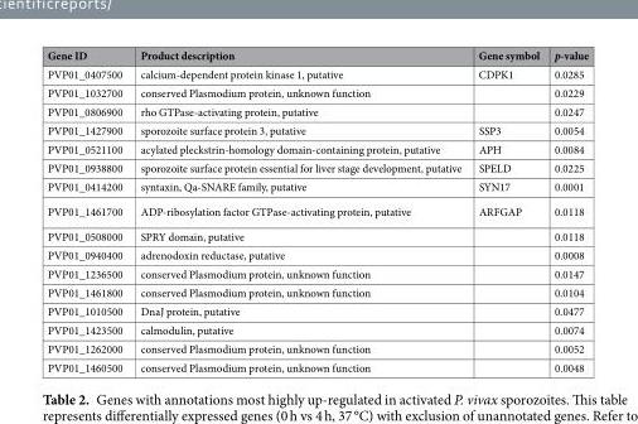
<table><thead><tr><td>Gene ID</td><td>Product description</td><td>Gene symbol</td><td>p-value</td></tr></thead><tbody><tr><td>PVP01_0407500</td><td>calcium-dependent protein kinase 1, putative</td><td>CDPK1</td><td>0.0285</td></tr><tr><td>PVP01_1032700</td><td>conserved Plasmodium protein, unknown function</td><td></td><td>0.0229</td></tr><tr><td>PVP01_0806900</td><td>rho GTPase-activating protein, putative</td><td></td><td>0.0247</td></tr><tr><td>PVP01_1427900</td><td>sporozoite surface protein 3, putative</td><td>SSP3</td><td>0.0054</td></tr><tr><td>PVP01_0521100</td><td>acylated pleckstrin-homology domain-containing protein, putative</td><td>APH</td><td>0.0084</td></tr><tr><td>PVP01_0938800</td><td>sporozoite surface protein essential for liver stage development, putative</td><td>SPELD</td><td>0.0225</td></tr><tr><td>PVP01_0414200</td><td>syntaxin, Qa-SNARE family, putative</td><td>SYN17</td><td>0.0001</td></tr><tr><td>PVP01_1461700</td><td>ADP-ribosylation factor GTPase-activating protein, putative</td><td>ARFGAP</td><td>0.0118</td></tr><tr><td>PVP01_0508000</td><td>SPRY domain, putative</td><td></td><td>0.0118</td></tr><tr><td>PVP01_0940400</td><td>adrenodoxin reductase, putative</td><td></td><td>0.0008</td></tr><tr><td>PVP01_1236500</td><td>conserved Plasmodium protein, unknown function</td><td></td><td>0.0147</td></tr><tr><td>PVP01_1461800</td><td>conserved Plasmodium protein, unknown function</td><td></td><td>0.0104</td></tr><tr><td>PVP01_1010500</td><td>DnaJ protein, putative</td><td></td><td>0.0477</td></tr><tr><td>PVP01_1423500</td><td>calmodulin, putative</td><td></td><td>0.0074</td></tr><tr><td>PVP01_1262000</td><td>conserved Plasmodium protein, unknown function</td><td></td><td>0.0052</td></tr><tr><td>PVP01_1460500</td><td>conserved Plasmodium protein, unknown function</td><td></td><td>0.0048</td></tr></tbody></table>